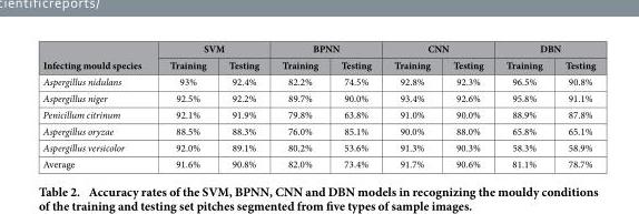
<table><thead><tr><td rowspan="2">Infecting mould species</td><td colspan="2">SVM</td><td colspan="2">BPNN</td><td colspan="2">CNN</td><td colspan="2">DBN</td></tr><tr><td>Training</td><td>Testing</td><td>Training</td><td>Testing</td><td>Training</td><td>Testing</td><td>Training</td><td>Testing</td></tr></thead><tbody><tr><td>Aspergillus nidulans</td><td>93%</td><td>92.4%</td><td>82.2%</td><td>74.5%</td><td>92.8%</td><td>92.3%</td><td>96.5%</td><td>90.8%</td></tr><tr><td>Aspergillus niger</td><td>92.5%</td><td>92.2%</td><td>89.7%</td><td>90.0%</td><td>93.4%</td><td>92.6%</td><td>95.8%</td><td>91.1%</td></tr><tr><td>Penicillum citrinum</td><td>92.1%</td><td>91.9%</td><td>79.8%</td><td>63.8%</td><td>91.0%</td><td>90.0%</td><td>88.9%</td><td>87.8%</td></tr><tr><td>Aspergillus oryzae</td><td>88.5%</td><td>88.3%</td><td>76.0%</td><td>85.1%</td><td>90.0%</td><td>88.0%</td><td>65.8%</td><td>65.1%</td></tr><tr><td>Aspergillus versicolor</td><td>92.0%</td><td>89.1%</td><td>80.2%</td><td>53.6%</td><td>91.3%</td><td>90.3%</td><td>58.3%</td><td>58.9%</td></tr><tr><td>Average</td><td>91.6%</td><td>90.8%</td><td>82.0%</td><td>73.4%</td><td>91.7%</td><td>90.6%</td><td>81.1%</td><td>78.7%</td></tr></tbody></table>